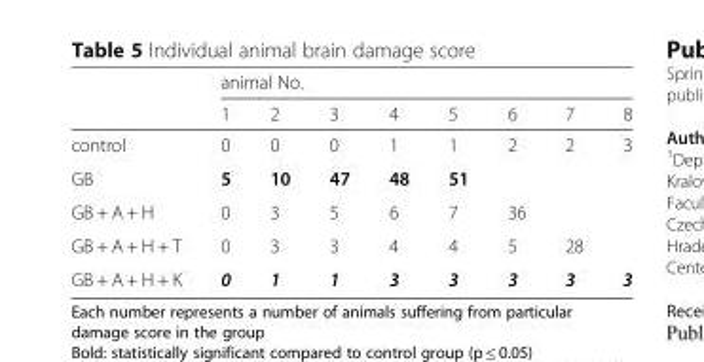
<table><thead><tr><td rowspan="2"></td><td colspan="8">animal No.</td></tr><tr><td>1</td><td>2</td><td>3</td><td>4</td><td>5</td><td>6</td><td>7</td><td>8</td></tr></thead><tbody><tr><td>control</td><td>0</td><td>0</td><td>0</td><td>1</td><td>1</td><td>2</td><td>2</td><td>3</td></tr><tr><td>GB</td><td>5</td><td>10</td><td>47</td><td>48</td><td>51</td><td></td><td></td><td></td></tr><tr><td>GB + A + H</td><td>0</td><td>3</td><td>5</td><td>6</td><td>7</td><td>36</td><td></td><td></td></tr><tr><td>GB + A + H + T</td><td>0</td><td>3</td><td>3</td><td>4</td><td>4</td><td>5</td><td>28</td><td></td></tr><tr><td>GB + A + H + K</td><td>0</td><td>1</td><td>1</td><td>3</td><td>3</td><td>3</td><td>3</td><td>3</td></tr></tbody></table>